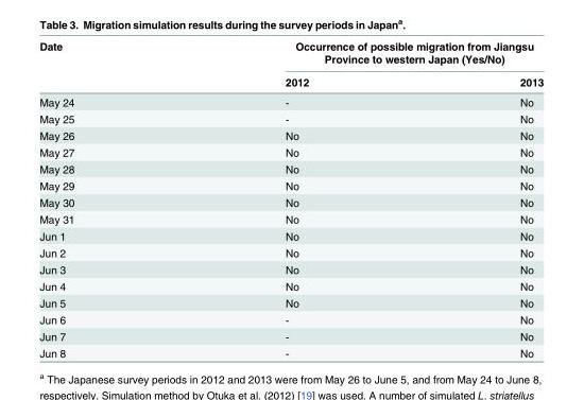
<table><thead><tr><td rowspan="2">Date</td><td colspan="2">Occurrence of possible migration from Jiangsu Province to western Japan (Yes/No)</td></tr><tr><td>2012</td><td>2013</td></tr></thead><tbody><tr><td>May 24</td><td>-</td><td>No</td></tr><tr><td>May 25</td><td>-</td><td>No</td></tr><tr><td>May 26</td><td>No</td><td>No</td></tr><tr><td>May 27</td><td>No</td><td>No</td></tr><tr><td>May 28</td><td>No</td><td>No</td></tr><tr><td>May 29</td><td>No</td><td>No</td></tr><tr><td>May 30</td><td>No</td><td>No</td></tr><tr><td>May 31</td><td>No</td><td>No</td></tr><tr><td>Jun 1</td><td>No</td><td>No</td></tr><tr><td>Jun 2</td><td>No</td><td>No</td></tr><tr><td>Jun 3</td><td>No</td><td>No</td></tr><tr><td>Jun 4</td><td>No</td><td>No</td></tr><tr><td>Jun 5</td><td>No</td><td>No</td></tr><tr><td>Jun 6</td><td>-</td><td>No</td></tr><tr><td>Jun 7</td><td>-</td><td>No</td></tr><tr><td>Jun 8</td><td>-</td><td>No</td></tr></tbody></table>